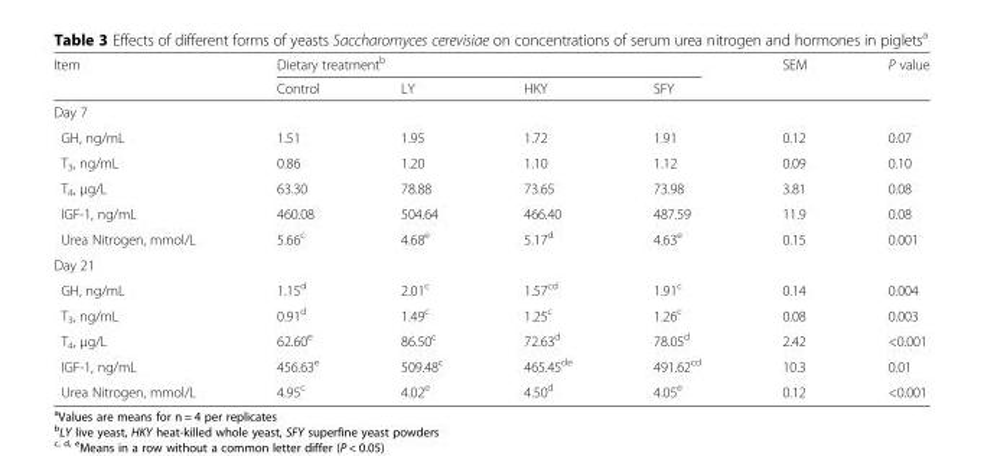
<table><thead><tr><td rowspan="2">Item</td><td colspan="4">Dietary treatment<sup>b</sup></td><td rowspan="2">SEM</td><td rowspan="2">P value</td></tr><tr><td>Control</td><td>LY</td><td>HKY</td><td>SFY</td></tr></thead><tbody><tr><td colspan="7">Day 7</td></tr><tr><td>GH, ng/mL</td><td>1.51</td><td>1.95</td><td>1.72</td><td>1.91</td><td>0.12</td><td>0.07</td></tr><tr><td>T<sub>3</sub>, ng/mL</td><td>0.86</td><td>1.20</td><td>1.10</td><td>1.12</td><td>0.09</td><td>0.10</td></tr><tr><td>T<sub>4</sub>, μg/L</td><td>63.30</td><td>78.88</td><td>73.65</td><td>73.98</td><td>3.81</td><td>0.08</td></tr><tr><td>IGF-1, ng/mL</td><td>460.08</td><td>504.64</td><td>466.40</td><td>487.59</td><td>11.9</td><td>0.08</td></tr><tr><td>Urea Nitrogen, mmol/L</td><td>5.66<sup>c</sup></td><td>4.68<sup>e</sup></td><td>5.17<sup>d</sup></td><td>4.63<sup>e</sup></td><td>0.15</td><td>0.001</td></tr><tr><td colspan="7">Day 21</td></tr><tr><td>GH, ng/mL</td><td>1.15<sup>d</sup></td><td>2.01<sup>c</sup></td><td>1.57<sup>cd</sup></td><td>1.91<sup>c</sup></td><td>0.14</td><td>0.004</td></tr><tr><td>T<sub>3</sub>, ng/mL</td><td>0.91<sup>d</sup></td><td>1.49<sup>c</sup></td><td>1.25<sup>c</sup></td><td>1.26<sup>c</sup></td><td>0.08</td><td>0.003</td></tr><tr><td>T<sub>4</sub>, μg/L</td><td>62.60<sup>e</sup></td><td>86.50<sup>c</sup></td><td>72.63<sup>d</sup></td><td>78.05<sup>d</sup></td><td>2.42</td><td>&lt;0.001</td></tr><tr><td>IGF-1, ng/mL</td><td>456.63<sup>e</sup></td><td>509.48<sup>c</sup></td><td>465.45<sup>de</sup></td><td>491.62<sup>cd</sup></td><td>10.3</td><td>0.01</td></tr><tr><td>Urea Nitrogen, mmol/L</td><td>4.95<sup>c</sup></td><td>4.02<sup>e</sup></td><td>4.50<sup>d</sup></td><td>4.05<sup>e</sup></td><td>0.12</td><td>&lt;0.001</td></tr></tbody></table>